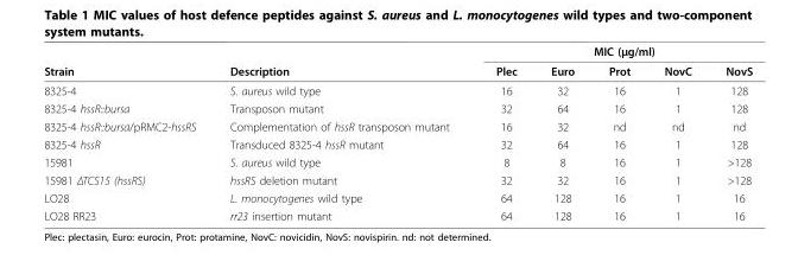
<table><thead><tr><td rowspan="2">Strain</td><td rowspan="2">Description</td><td colspan="5">MIC (μg/ml)</td></tr><tr><td>Plec</td><td>Euro</td><td>Prot</td><td>NovC</td><td>NovS</td></tr></thead><tbody><tr><td>8325-4</td><td>S. aureus wild type</td><td>16</td><td>32</td><td>16</td><td>1</td><td>128</td></tr><tr><td>8325-4 hssR::bursa</td><td>Transposon mutant</td><td>32</td><td>64</td><td>16</td><td>1</td><td>128</td></tr><tr><td>8325-4 hssR::bursa/pRMC2-hssRS</td><td>Complementation of hssR transposon mutant</td><td>16</td><td>32</td><td>nd</td><td>nd</td><td>nd</td></tr><tr><td>8325-4 hssR</td><td>Transduced 8325-4 hssR mutant</td><td>32</td><td>64</td><td>16</td><td>1</td><td>128</td></tr><tr><td>15981</td><td>S. aureus wild type</td><td>8</td><td>8</td><td>16</td><td>1</td><td>&gt;128</td></tr><tr><td>15981 ΔTCS15 (hssRS)</td><td>hssRS deletion mutant</td><td>32</td><td>32</td><td>16</td><td>1</td><td>&gt;128</td></tr><tr><td>LO28</td><td>L. monocytogenes wild type</td><td>64</td><td>128</td><td>16</td><td>1</td><td>16</td></tr><tr><td>LO28 RR23</td><td>rr23 insertion mutant</td><td>64</td><td>128</td><td>16</td><td>1</td><td>16</td></tr></tbody></table>